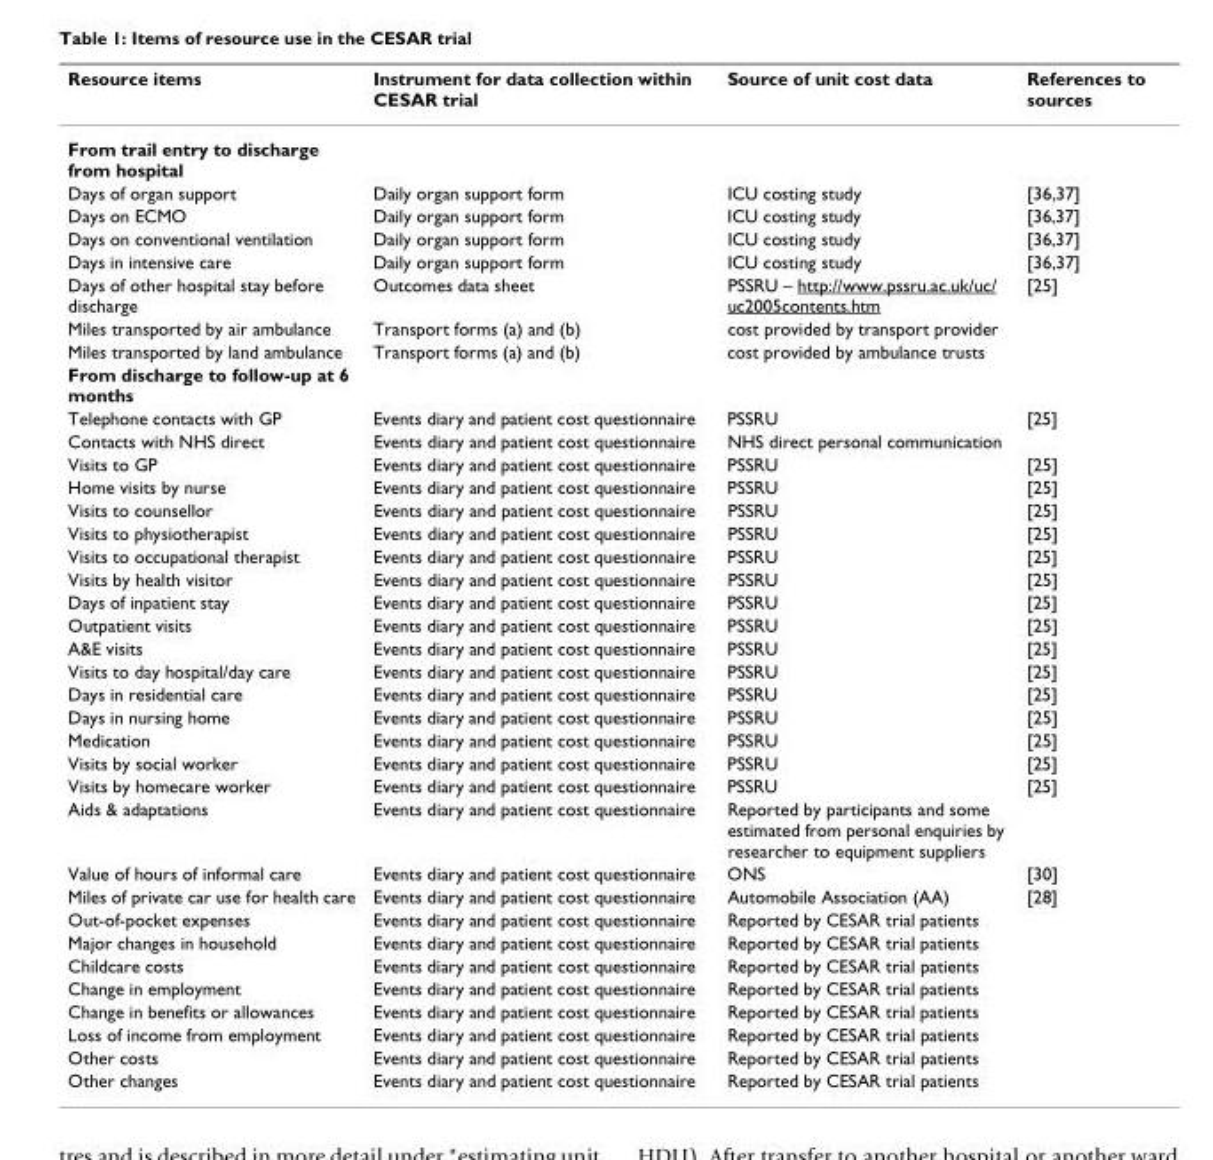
<table><thead><tr><td>Resource items</td><td>Instrument for data collection within CESAR trial</td><td>Source of unit cost data</td><td>References to sources</td></tr></thead><tbody><tr><td colspan="4">From trail entry to discharge from hospital</td></tr><tr><td>Days of organ support</td><td>Daily organ support form</td><td>ICU costing study</td><td>[36,37]</td></tr><tr><td>Days on ECMO</td><td>Daily organ support form</td><td>ICU costing study</td><td>[36,37]</td></tr><tr><td>Days on conventional ventilation</td><td>Daily organ support form</td><td>ICU costing study</td><td>[36,37]</td></tr><tr><td>Days in intensive care</td><td>Daily organ support form</td><td>ICU costing study</td><td>[36,37]</td></tr><tr><td>Days of other hospital stay before discharge</td><td>Outcomes data sheet</td><td>PSSRU – http://www.pssru.ac.uk/uc/ uc2005contents.htm</td><td>[25]</td></tr><tr><td>Miles transported by air ambulance</td><td>Transport forms (a) and (b)</td><td>cost provided by transport provider</td><td></td></tr><tr><td>Miles transported by land ambulance</td><td>Transport forms (a) and (b)</td><td>cost provided by ambulance trusts</td><td></td></tr><tr><td colspan="4">From discharge to follow-up at 6 months</td></tr><tr><td>Telephone contacts with GP</td><td>Events diary and patient cost questionnaire</td><td>PSSRU</td><td>[25]</td></tr><tr><td>Contacts with NHS direct</td><td>Events diary and patient cost questionnaire</td><td>NHS direct personal communication</td><td></td></tr><tr><td>Visits to GP</td><td>Events diary and patient cost questionnaire</td><td>PSSRU</td><td>[25]</td></tr><tr><td>Home visits by nurse</td><td>Events diary and patient cost questionnaire</td><td>PSSRU</td><td>[25]</td></tr><tr><td>Visits to counsellor</td><td>Events diary and patient cost questionnaire</td><td>PSSRU</td><td>[25]</td></tr><tr><td>Visits to physiotherapist</td><td>Events diary and patient cost questionnaire</td><td>PSSRU</td><td>[25]</td></tr><tr><td>Visits to occupational therapist</td><td>Events diary and patient cost questionnaire</td><td>PSSRU</td><td>[25]</td></tr><tr><td>Visits by health visitor</td><td>Events diary and patient cost questionnaire</td><td>PSSRU</td><td>[25]</td></tr><tr><td>Days of inpatient stay</td><td>Events diary and patient cost questionnaire</td><td>PSSRU</td><td>[25]</td></tr><tr><td>Outpatient visits</td><td>Events diary and patient cost questionnaire</td><td>PSSRU</td><td>[25]</td></tr><tr><td>A&amp;E visits</td><td>Events diary and patient cost questionnaire</td><td>PSSRU</td><td>[25]</td></tr><tr><td>Visits to day hospital/day care</td><td>Events diary and patient cost questionnaire</td><td>PSSRU</td><td>[25]</td></tr><tr><td>Days in residential care</td><td>Events diary and patient cost questionnaire</td><td>PSSRU</td><td>[25]</td></tr><tr><td>Days in nursing home</td><td>Events diary and patient cost questionnaire</td><td>PSSRU</td><td>[25]</td></tr><tr><td>Medication</td><td>Events diary and patient cost questionnaire</td><td>PSSRU</td><td>[25]</td></tr><tr><td>Visits by social worker</td><td>Events diary and patient cost questionnaire</td><td>PSSRU</td><td>[25]</td></tr><tr><td>Visits by homecare worker</td><td>Events diary and patient cost questionnaire</td><td>PSSRU</td><td>[25]</td></tr><tr><td>Aids &amp; adaptations</td><td>Events diary and patient cost questionnaire</td><td>Reported by participants and some estimated from personal enquiries by researcher to equipment suppliers</td><td></td></tr><tr><td>Value of hours of informal care</td><td>Events diary and patient cost questionnaire</td><td>ONS</td><td>[30]</td></tr><tr><td>Miles of private car use for health care</td><td>Events diary and patient cost questionnaire</td><td>Automobile Association (AA)</td><td>[28]</td></tr><tr><td>Out-of-pocket expenses</td><td>Events diary and patient cost questionnaire</td><td>Reported by CESAR trial patients</td><td></td></tr><tr><td>Major changes in household</td><td>Events diary and patient cost questionnaire</td><td>Reported by CESAR trial patients</td><td></td></tr><tr><td>Childcare costs</td><td>Events diary and patient cost questionnaire</td><td>Reported by CESAR trial patients</td><td></td></tr><tr><td>Change in employment</td><td>Events diary and patient cost questionnaire</td><td>Reported by CESAR trial patients</td><td></td></tr><tr><td>Change in benefits or allowances</td><td>Events diary and patient cost questionnaire</td><td>Reported by CESAR trial patients</td><td></td></tr><tr><td>Loss of income from employment</td><td>Events diary and patient cost questionnaire</td><td>Reported by CESAR trial patients</td><td></td></tr><tr><td>Other costs</td><td>Events diary and patient cost questionnaire</td><td>Reported by CESAR trial patients</td><td></td></tr><tr><td>Other changes</td><td>Events diary and patient cost questionnaire</td><td>Reported by CESAR trial patients</td><td></td></tr></tbody></table>